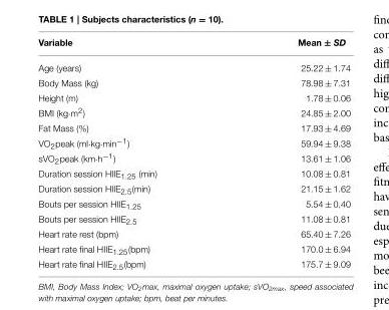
<table><thead><tr><td>Variable</td><td>Mean ± SD</td></tr></thead><tbody><tr><td>Age (years)</td><td>25.22 ± 1.74</td></tr><tr><td>Body Mass (kg)</td><td>78.98 ± 7.31</td></tr><tr><td>Height (m)</td><td>1.78 ± 0.06</td></tr><tr><td>BMI (kg·m<sup>2</sup>)</td><td>24.85 ± 2.00</td></tr><tr><td>Fat Mass (%)</td><td>17.93 ± 4.69</td></tr><tr><td>VO<sub>2</sub>peak (ml·kg·min<sup>−1</sup>)</td><td>59.94 ± 9.38</td></tr><tr><td>sVO<sub>2</sub>peak (km·h<sup>−1</sup>)</td><td>13.61 ± 1.06</td></tr><tr><td>Duration session HIIE<sub>1.25</sub> (min)</td><td>10.08 ± 0.81</td></tr><tr><td>Duration session HIIE<sub>2.5</sub>(min)</td><td>21.15 ± 1.62</td></tr><tr><td>Bouts per session HIIE<sub>1.25</sub></td><td>5.54 ± 0.40</td></tr><tr><td>Bouts per session HIIE<sub>2.5</sub></td><td>11.08 ± 0.81</td></tr><tr><td>Heart rate rest (bpm)</td><td>65.40 ± 7.26</td></tr><tr><td>Heart rate final HIIE<sub>1.25</sub>(bpm)</td><td>170.0 ± 6.94</td></tr><tr><td>Heart rate final HIIE<sub>2.5</sub>(bpm)</td><td>175.7 ± 9.09</td></tr></tbody></table>